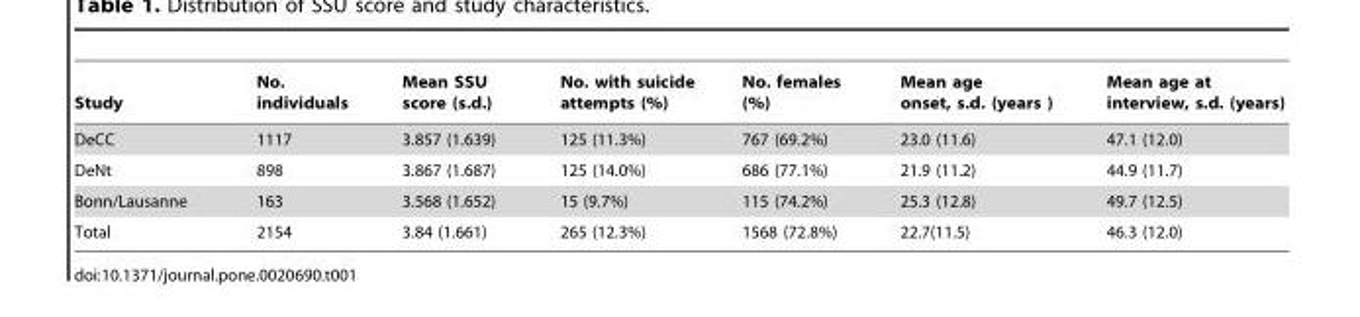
<table><thead><tr><td>Study</td><td>No. individuals</td><td>Mean SSU score (s.d.)</td><td>No. with suicide attempts (%)</td><td>No. females (%)</td><td>Mean age onset, s.d. (years )</td><td>Mean age at interview, s.d. (years)</td></tr></thead><tbody><tr><td>DeCC</td><td>1117</td><td>3.857 (1.639)</td><td>125 (11.3%)</td><td>767 (69.2%)</td><td>23.0 (11.6)</td><td>47.1 (12.0)</td></tr><tr><td>DeNt</td><td>898</td><td>3.867 (1.687)</td><td>125 (14.0%)</td><td>686 (77.1%)</td><td>21.9 (11.2)</td><td>44.9 (11.7)</td></tr><tr><td>Bonn/Lausanne</td><td>163</td><td>3.568 (1.652)</td><td>15 (9.7%)</td><td>115 (74.2%)</td><td>25.3 (12.8)</td><td>49.7 (12.5)</td></tr><tr><td>Total</td><td>2154</td><td>3.84 (1.661)</td><td>265 (12.3%)</td><td>1568 (72.8%)</td><td>22.7(11.5)</td><td>46.3 (12.0)</td></tr></tbody></table>